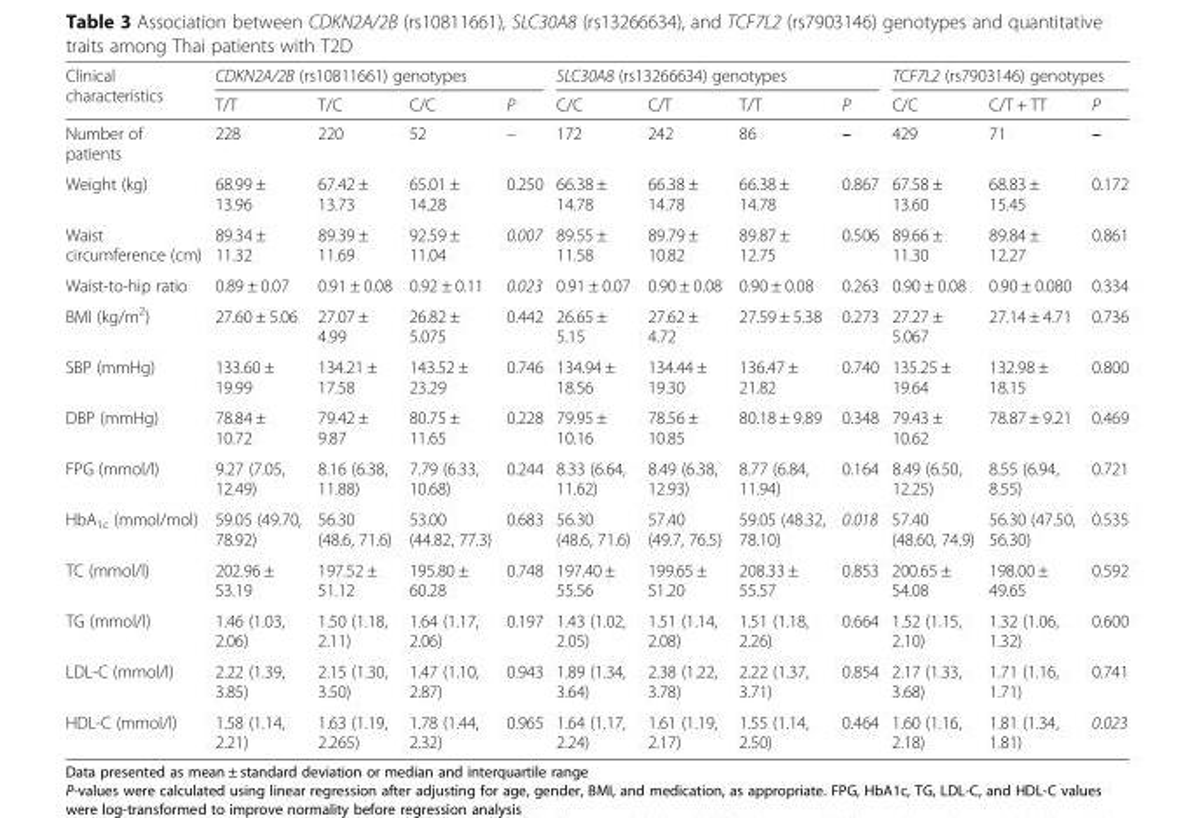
<table><thead><tr><td rowspan="2">Clinical characteristics</td><td colspan="4">CDKN2A/2B (rs10811661) genotypes</td><td colspan="4">SLC30A8 (rs13266634) genotypes</td><td colspan="3">TCF7L2 (rs7903146) genotypes</td></tr><tr><td>T/T</td><td>T/C</td><td>C/C</td><td>P</td><td>C/C</td><td>C/T</td><td>T/T</td><td>P</td><td>C/C</td><td>C/T + TT</td><td>P</td></tr></thead><tbody><tr><td>Number of patients</td><td>228</td><td>220</td><td>52</td><td>–</td><td>172</td><td>242</td><td>86</td><td>–</td><td>429</td><td>71</td><td>–</td></tr><tr><td>Weight (kg)</td><td>68.99 ± 13.96</td><td>67.42 ± 13.73</td><td>65.01 ± 14.28</td><td>0.250</td><td>66.38 ± 14.78</td><td>66.38 ± 14.78</td><td>66.38 ± 14.78</td><td>0.867</td><td>67.58 ± 13.60</td><td>68.83 ± 15.45</td><td>0.172</td></tr><tr><td>Waist circumference (cm)</td><td>89.34 ± 11.32</td><td>89.39 ± 11.69</td><td>92.59 ± 11.04</td><td>0.007</td><td>89.55 ± 11.58</td><td>89.79 ± 10.82</td><td>89.87 ± 12.75</td><td>0.506</td><td>89.66 ± 11.30</td><td>89.84 ± 12.27</td><td>0.861</td></tr><tr><td>Waist-to-hip ratio</td><td>0.89 ± 0.07</td><td>0.91 ± 0.08</td><td>0.92 ± 0.11</td><td>0.023</td><td>0.91 ± 0.07</td><td>0.90 ± 0.08</td><td>0.90 ± 0.08</td><td>0.263</td><td>0.90 ± 0.08</td><td>0.90 ± 0.080</td><td>0.334</td></tr><tr><td>BMI (kg/m<sup>2</sup>)</td><td>27.60 ± 5.06</td><td>27.07 ± 4.99</td><td>26.82 ± 5.075</td><td>0.442</td><td>26.65 ± 5.15</td><td>27.62 ± 4.72</td><td>27.59 ± 5.38</td><td>0.273</td><td>27.27 ± 5.067</td><td>27.14 ± 4.71</td><td>0.736</td></tr><tr><td>SBP (mmHg)</td><td>133.60 ± 19.99</td><td>134.21 ± 17.58</td><td>143.52 ± 23.29</td><td>0.746</td><td>134.94 ± 18.56</td><td>134.44 ± 19.30</td><td>136.47 ± 21.82</td><td>0.740</td><td>135.25 ± 19.64</td><td>132.98 ± 18.15</td><td>0.800</td></tr><tr><td>DBP (mmHg)</td><td>78.84 ± 10.72</td><td>79.42 ± 9.87</td><td>80.75 ± 11.65</td><td>0.228</td><td>79.95 ± 10.16</td><td>78.56 ± 10.85</td><td>80.18 ± 9.89</td><td>0.348</td><td>79.43 ± 10.62</td><td>78.87 ± 9.21</td><td>0.469</td></tr><tr><td>FPG (mmol/l)</td><td>9.27 (7.05, 12.49)</td><td>8.16 (6.38, 11.88)</td><td>7.79 (6.33, 10.68)</td><td>0.244</td><td>8.33 (6.64, 11.62)</td><td>8.49 (6.38, 12.93)</td><td>8.77 (6.84, 11.94)</td><td>0.164</td><td>8.49 (6.50, 12.25)</td><td>8.55 (6.94, 8.55)</td><td>0.721</td></tr><tr><td>HbA<sub>1c</sub> (mmol/mol)</td><td>59.05 (49.70, 78.92)</td><td>56.30 (48.6, 71.6)</td><td>53.00 (44.82, 77.3)</td><td>0.683</td><td>56.30 (48.6, 71.6)</td><td>57.40 (49.7, 76.5)</td><td>59.05 (48.32, 78.10)</td><td>0.018</td><td>57.40 (48.60, 74.9)</td><td>56.30 (47.50, 56.30)</td><td>0.535</td></tr><tr><td>TC (mmol/l)</td><td>202.96 ± 53.19</td><td>197.52 ± 51.12</td><td>195.80 ± 60.28</td><td>0.748</td><td>197.40 ± 55.56</td><td>199.65 ± 51.20</td><td>208.33 ± 55.57</td><td>0.853</td><td>200.65 ± 54.08</td><td>198.00 ± 49.65</td><td>0.592</td></tr><tr><td>TG (mmol/l)</td><td>1.46 (1.03, 2.06)</td><td>1.50 (1.18, 2.11)</td><td>1.64 (1.17, 2.06)</td><td>0.197</td><td>1.43 (1.02, 2.05)</td><td>1.51 (1.14, 2.08)</td><td>1.51 (1.18, 2.26)</td><td>0.664</td><td>1.52 (1.15, 2.10)</td><td>1.32 (1.06, 1.32)</td><td>0.600</td></tr><tr><td>LDL-C (mmol/l)</td><td>2.22 (1.39, 3.85)</td><td>2.15 (1.30, 3.50)</td><td>1.47 (1.10, 2.87)</td><td>0.943</td><td>1.89 (1.34, 3.64)</td><td>2.38 (1.22, 3.78)</td><td>2.22 (1.37, 3.71)</td><td>0.854</td><td>2.17 (1.33, 3.68)</td><td>1.71 (1.16, 1.71)</td><td>0.741</td></tr><tr><td>HDL-C (mmol/l)</td><td>1.58 (1.14, 2.21)</td><td>1.63 (1.19, 2.265)</td><td>1.78 (1.44, 2.32)</td><td>0.965</td><td>1.64 (1.17, 2.24)</td><td>1.61 (1.19, 2.17)</td><td>1.55 (1.14, 2.50)</td><td>0.464</td><td>1.60 (1.16, 2.18)</td><td>1.81 (1.34, 1.81)</td><td>0.023</td></tr></tbody></table>